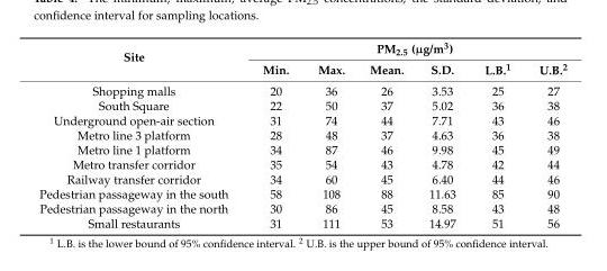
<table><thead><tr><td rowspan="2">Site</td><td colspan="6">PM<sub>2.5</sub> (µg/m<sup>3</sup>)</td></tr><tr><td>Min.</td><td>Max.</td><td>Mean.</td><td>S.D.</td><td>L.B.<sup>1</sup></td><td>U.B.<sup>2</sup></td></tr></thead><tbody><tr><td>Shopping malls</td><td>20</td><td>36</td><td>26</td><td>3.53</td><td>25</td><td>27</td></tr><tr><td>South Square</td><td>22</td><td>50</td><td>37</td><td>5.02</td><td>36</td><td>38</td></tr><tr><td>Underground open-air section</td><td>31</td><td>74</td><td>44</td><td>7.71</td><td>43</td><td>46</td></tr><tr><td>Metro line 3 platform</td><td>28</td><td>48</td><td>37</td><td>4.63</td><td>36</td><td>38</td></tr><tr><td>Metro line 1 platform</td><td>34</td><td>87</td><td>46</td><td>9.98</td><td>45</td><td>49</td></tr><tr><td>Metro transfer corridor</td><td>35</td><td>54</td><td>43</td><td>4.78</td><td>42</td><td>44</td></tr><tr><td>Railway transfer corridor</td><td>34</td><td>60</td><td>45</td><td>6.40</td><td>44</td><td>46</td></tr><tr><td>Pedestrian passageway in the south</td><td>58</td><td>108</td><td>88</td><td>11.63</td><td>85</td><td>90</td></tr><tr><td>Pedestrian passageway in the north</td><td>30</td><td>86</td><td>45</td><td>8.58</td><td>43</td><td>48</td></tr><tr><td>Small restaurants</td><td>31</td><td>111</td><td>53</td><td>14.97</td><td>51</td><td>56</td></tr></tbody></table>